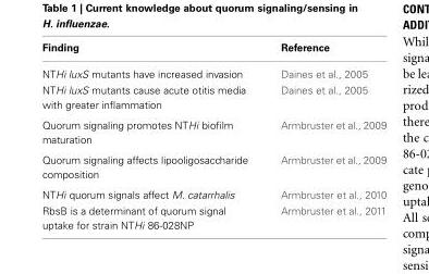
<table><thead><tr><td>Finding</td><td>Reference</td></tr></thead><tbody><tr><td>NTHi luxS mutants have increased invasion</td><td>Daines et al., 2005</td></tr><tr><td>NTHi luxS mutants cause acute otitis media with greater inflammation</td><td>Daines et al., 2005</td></tr><tr><td>Quorum signaling promotes NTHi biofilm maturation</td><td>Armbruster et al., 2009</td></tr><tr><td>Quorum signaling affects lipooligosaccharide composition</td><td>Armbruster et al., 2009</td></tr><tr><td>NTHi quorum signals affect M. catarrhalis</td><td>Armbruster et al., 2010</td></tr><tr><td>RbsB is a determinant of quorum signal uptake for strain NTHi 86-028NP</td><td>Armbruster et al., 2011</td></tr></tbody></table>